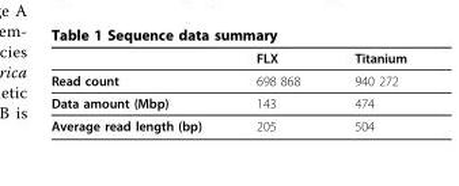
<table><thead><tr><td></td><td>FLX</td><td>Titanium</td></tr></thead><tbody><tr><td>Read count</td><td>698 868</td><td>940 272</td></tr><tr><td>Data amount (Mbp)</td><td>143</td><td>474</td></tr><tr><td>Average read length (bp)</td><td>205</td><td>504</td></tr></tbody></table>